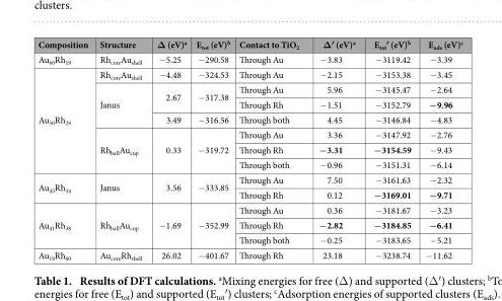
<table><thead><tr><td>Composition</td><td>Structure</td><td>Δ (eV)<sup>a</sup></td><td>E<sub>tot</sub> (eV)<sup>b</sup></td><td>Contact to TiO<sub>2</sub></td><td>Δ′ (eV)<sup>a</sup></td><td>E<sub>tot</sub>′ (eV)<sup>b</sup></td><td>E<sub>ads</sub> (eV)<sup>c</sup></td></tr></thead><tbody><tr><td>Au<sub>60</sub>Rh<sub>19</sub></td><td>Rh<sub>core</sub>Au<sub>shell</sub></td><td>− 5.25</td><td>− 290.58</td><td>Through Au</td><td>− 3.83</td><td>− 3119.42</td><td>− 3.39</td></tr><tr><td rowspan="7">Au<sub>50</sub>Rh<sub>29</sub></td><td>Rh<sub>core</sub>Au<sub>shell</sub></td><td>− 4.48</td><td>− 324.53</td><td>Through Au</td><td>− 2.15</td><td>− 3153.38</td><td>− 3.45</td></tr><tr><td rowspan="3">Janus</td><td rowspan="2">2.67</td><td rowspan="2">− 317.38</td><td>Through Au</td><td>5.96</td><td>− 3145.47</td><td>− 2.64</td></tr><tr><td>Through Rh</td><td>− 1.51</td><td>− 3152.79</td><td>−9.96</td></tr><tr><td>3.49</td><td>− 316.56</td><td>Through both</td><td>4.45</td><td>− 3146.84</td><td>− 4.83</td></tr><tr><td rowspan="3">Rh<sub>ball</sub>Au<sub>cup</sub></td><td rowspan="3">0.33</td><td rowspan="3">− 319.72</td><td>Through Au</td><td>3.36</td><td>− 3147.92</td><td>− 2.76</td></tr><tr><td>Through Rh</td><td>−3.31</td><td>−3154.59</td><td>− 9.43</td></tr><tr><td>Through both</td><td>− 0.96</td><td>− 3151.31</td><td>− 6.14</td></tr><tr><td rowspan="2">Au<sub>45</sub>Rh<sub>34</sub></td><td rowspan="2">Janus</td><td rowspan="2">3.56</td><td rowspan="2">− 333.85</td><td>Through Au</td><td>7.50</td><td>− 3161.63</td><td>− 2.32</td></tr><tr><td>Through Rh</td><td>0.12</td><td>−3169.01</td><td>−9.71</td></tr><tr><td rowspan="3">Au<sub>41</sub>Rh<sub>38</sub></td><td rowspan="3">Rh<sub>ball</sub>Au<sub>cup</sub></td><td rowspan="3">− 1.69</td><td rowspan="3">− 352.99</td><td>Through Au</td><td>0.36</td><td>− 3181.67</td><td>− 3.23</td></tr><tr><td>Through Rh</td><td>−2.82</td><td>−3184.85</td><td>−6.41</td></tr><tr><td>Through both</td><td>− 0.25</td><td>− 3183.65</td><td>− 5.21</td></tr><tr><td>Au<sub>19</sub>Rh<sub>60</sub></td><td>Au<sub>core</sub>Rh<sub>shell</sub></td><td>26.02</td><td>− 401.67</td><td>Through Rh</td><td>23.18</td><td>− 3238.74</td><td>− 11.62</td></tr></tbody></table>